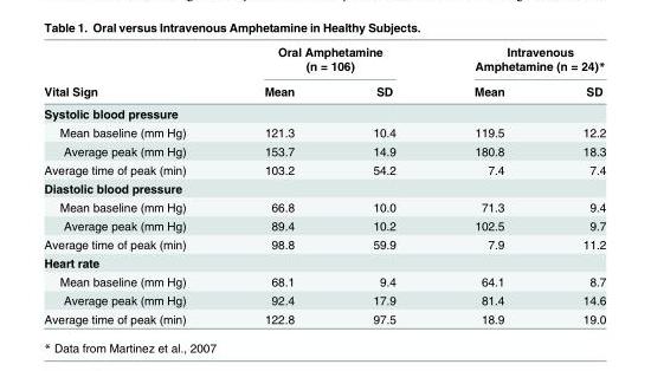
<table><thead><tr><td rowspan="2">Vital Sign</td><td colspan="2">Oral Amphetamine (n = 106)</td><td colspan="2">Intravenous Amphetamine (n = 24)*</td></tr><tr><td>Mean</td><td>SD</td><td>Mean</td><td>SD</td></tr></thead><tbody><tr><td colspan="5">Systolic blood pressure</td></tr><tr><td>Mean baseline (mm Hg)</td><td>121.3</td><td>10.4</td><td>119.5</td><td>12.2</td></tr><tr><td>Average peak (mm Hg)</td><td>153.7</td><td>14.9</td><td>180.8</td><td>18.3</td></tr><tr><td>Average time of peak (min)</td><td>103.2</td><td>54.2</td><td>7.4</td><td>7.4</td></tr><tr><td colspan="5">Diastolic blood pressure</td></tr><tr><td>Mean baseline (mm Hg)</td><td>66.8</td><td>10.0</td><td>71.3</td><td>9.4</td></tr><tr><td>Average peak (mm Hg)</td><td>89.4</td><td>10.2</td><td>102.5</td><td>9.7</td></tr><tr><td>Average time of peak (min)</td><td>98.8</td><td>59.9</td><td>7.9</td><td>11.2</td></tr><tr><td colspan="5">Heart rate</td></tr><tr><td>Mean baseline (mm Hg)</td><td>68.1</td><td>9.4</td><td>64.1</td><td>8.7</td></tr><tr><td>Average peak (mm Hg)</td><td>92.4</td><td>17.9</td><td>81.4</td><td>14.6</td></tr><tr><td>Average time of peak (min)</td><td>122.8</td><td>97.5</td><td>18.9</td><td>19.0</td></tr></tbody></table>